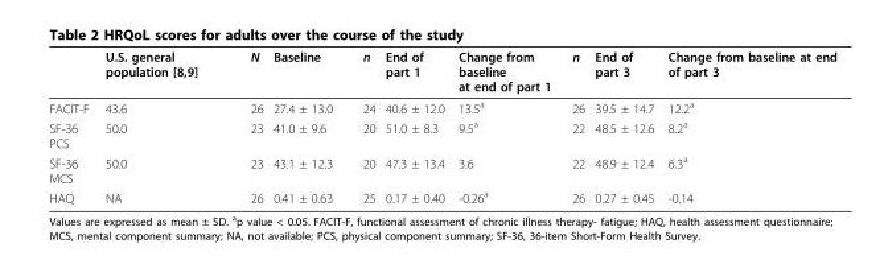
<table><thead><tr><td></td><td>U.S. general population [8,9]</td><td>N</td><td>Baseline</td><td>n</td><td>End of part 1</td><td>Change from baseline at end of part 1</td><td>n</td><td>End of part 3</td><td>Change from baseline at end of part 3</td></tr></thead><tbody><tr><td>FACIT-F</td><td>43.6</td><td>26</td><td>27.4 ± 13.0</td><td>24</td><td>40.6 ± 12.0</td><td>13.5<sup>a</sup></td><td>26</td><td>39.5 ± 14.7</td><td>12.2<sup>a</sup></td></tr><tr><td>SF-36 PCS</td><td>50.0</td><td>23</td><td>41.0 ± 9.6</td><td>20</td><td>51.0 ± 8.3</td><td>9.5<sup>a</sup></td><td>22</td><td>48.5 ± 12.6</td><td>8.2<sup>a</sup></td></tr><tr><td>SF-36 MCS</td><td>50.0</td><td>23</td><td>43.1 ± 12.3</td><td>20</td><td>47.3 ± 13.4</td><td>3.6</td><td>22</td><td>48.9 ± 12.4</td><td>6.3<sup>a</sup></td></tr><tr><td>HAQ</td><td>NA</td><td>26</td><td>0.41 ± 0.63</td><td>25</td><td>0.17 ± 0.40</td><td>-0.26<sup>a</sup></td><td>26</td><td>0.27 ± 0.45</td><td>-0.14</td></tr></tbody></table>